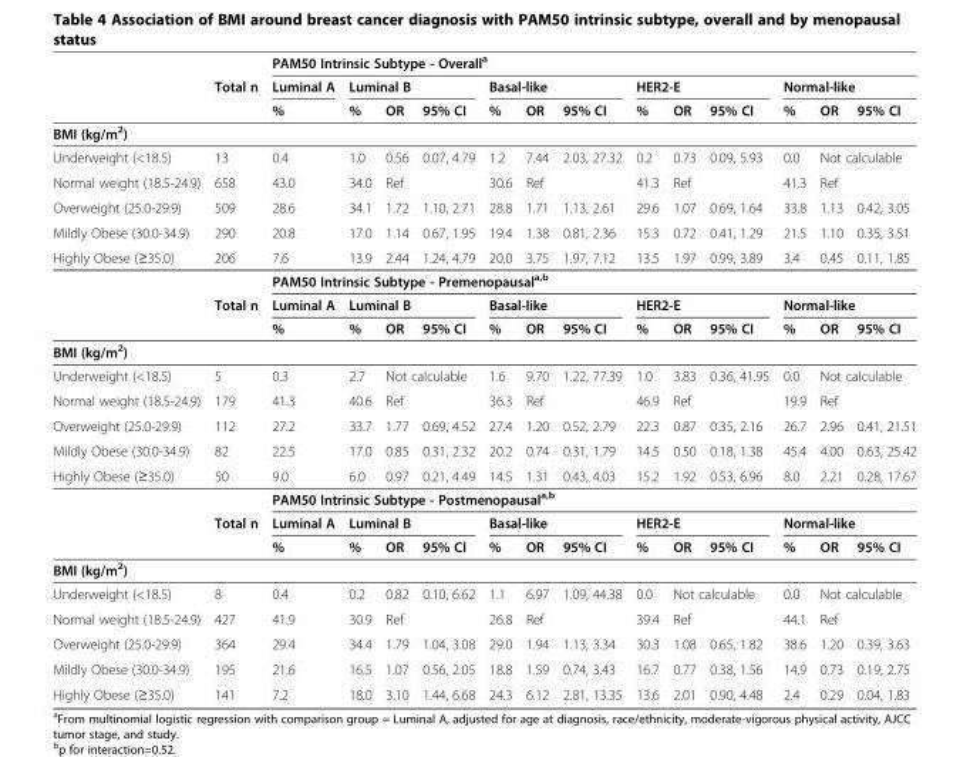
<table><thead><tr><td rowspan="3"></td><td rowspan="3">Total n</td><td colspan="13">PAM50 Intrinsic Subtype - Overall<sup>a</sup></td></tr><tr><td rowspan="2">Luminal A %</td><td colspan="3">Luminal B</td><td colspan="3">Basal-like</td><td colspan="3">HER2-E</td><td colspan="3">Normal-like</td></tr><tr><td>%</td><td>OR</td><td>95% CI</td><td>%</td><td>OR</td><td>95% CI</td><td>%</td><td>OR</td><td>95% CI</td><td>%</td><td>OR</td><td>95% CI</td></tr></thead><tbody><tr><td colspan="15">BMI (kg/m<sup>2</sup>)</td></tr><tr><td>Underweight (&lt;18.5)</td><td>13</td><td>0.4</td><td>1.0</td><td>0.56</td><td>0.07, 4.79</td><td>1.2</td><td>7.44</td><td>2.03, 27.32</td><td>0.2</td><td>0.73</td><td>0.09, 5.93</td><td>0.0</td><td colspan="2">Not calculable</td></tr><tr><td>Normal weight (18.5-24.9)</td><td>658</td><td>43.0</td><td>34.0</td><td>Ref</td><td></td><td>30.6</td><td>Ref</td><td></td><td>41.3</td><td>Ref</td><td></td><td>41.3</td><td>Ref</td><td></td></tr><tr><td>Overweight (25.0-29.9)</td><td>509</td><td>28.6</td><td>34.1</td><td>1.72</td><td>1.10, 2.71</td><td>28.8</td><td>1.71</td><td>1.13, 2.61</td><td>29.6</td><td>1.07</td><td>0.69, 1.64</td><td>33.8</td><td>1.13</td><td>0.42, 3.05</td></tr><tr><td>Mildly Obese (30.0-34.9)</td><td>290</td><td>20.8</td><td>17.0</td><td>1.14</td><td>0.67, 1.95</td><td>19.4</td><td>1.38</td><td>0.81, 2.36</td><td>15.3</td><td>0.72</td><td>0.41, 1.29</td><td>21.5</td><td>1.10</td><td>0.35, 3.51</td></tr><tr><td rowspan="4">Highly Obese (≥35.0)</td><td>206</td><td>7.6</td><td>13.9</td><td>2.44</td><td>1.24, 4.79</td><td>20.0</td><td>3.75</td><td>1.97, 7.12</td><td>13.5</td><td>1.97</td><td>0.99, 3.89</td><td>3.4</td><td>0.45</td><td>0.11, 1.85</td></tr><tr><td rowspan="3">Total n</td><td colspan="13">PAM50 Intrinsic Subtype - Premenopausal<sup>a,b</sup></td></tr><tr><td>Luminal A</td><td colspan="3">Luminal B</td><td colspan="3">Basal-like</td><td colspan="3">HER2-E</td><td colspan="3">Normal-like</td></tr><tr><td>%</td><td>%</td><td>OR</td><td>95% CI</td><td>%</td><td>OR</td><td>95% CI</td><td>%</td><td>OR</td><td>95% CI</td><td>%</td><td>OR</td><td>95% CI</td></tr><tr><td colspan="15">BMI (kg/m<sup>2</sup>)</td></tr><tr><td>Underweight (&lt;18.5)</td><td>5</td><td>0.3</td><td>2.7</td><td colspan="2">Not calculable</td><td>1.6</td><td>9.70</td><td>1.22, 77.39</td><td>1.0</td><td>3.83</td><td>0.36, 41.95</td><td>0.0</td><td colspan="2">Not calculable</td></tr><tr><td>Normal weight (18.5-24.9)</td><td>179</td><td>41.3</td><td>40.6</td><td>Ref</td><td></td><td>36.3</td><td>Ref</td><td></td><td>46.9</td><td>Ref</td><td></td><td>19.9</td><td>Ref</td><td></td></tr><tr><td>Overweight (25.0-29.9)</td><td>112</td><td>27.2</td><td>33.7</td><td>1.77</td><td>0.69, 4.52</td><td>27.4</td><td>1.20</td><td>0.52, 2.79</td><td>22.3</td><td>0.87</td><td>0.35, 2.16</td><td>26.7</td><td>2.96</td><td>0.41, 21.51</td></tr><tr><td>Mildly Obese (30.0-34.9)</td><td>82</td><td>22.5</td><td>17.0</td><td>0.85</td><td>0.31, 2.32</td><td>20.2</td><td>0.74</td><td>0.31, 1.79</td><td>14.5</td><td>0.50</td><td>0.18, 1.38</td><td>45.4</td><td>4.00</td><td>0.63, 25.42</td></tr><tr><td rowspan="4">Highly Obese (≥35.0)</td><td>50</td><td>9.0</td><td>6.0</td><td>0.97</td><td>0.21, 4.49</td><td>14.5</td><td>1.31</td><td>0.43, 4.03</td><td>15.2</td><td>1.92</td><td>0.53, 6.96</td><td>8.0</td><td>2.21</td><td>0.28, 17.67</td></tr><tr><td rowspan="3">Total n</td><td colspan="13">PAM50 Intrinsic Subtype - Postmenopausal<sup>a,b</sup></td></tr><tr><td>Luminal A</td><td colspan="3">Luminal B</td><td colspan="3">Basal-like</td><td colspan="3">HER2-E</td><td colspan="3">Normal-like</td></tr><tr><td>%</td><td>%</td><td>OR</td><td>95% CI</td><td>%</td><td>OR</td><td>95% CI</td><td>%</td><td>OR</td><td>95% CI</td><td>%</td><td>OR</td><td>95% CI</td></tr><tr><td colspan="15">BMI (kg/m<sup>2</sup>)</td></tr><tr><td>Underweight (&lt;18.5)</td><td>8</td><td>0.4</td><td>0.2</td><td>0.82</td><td>0.10, 6.62</td><td>1.1</td><td>6.97</td><td>1.09, 44.38</td><td>0.0</td><td colspan="2">Not calculable</td><td>0.0</td><td colspan="2">Not calculable</td></tr><tr><td>Normal weight (18.5-24.9)</td><td>427</td><td>41.9</td><td>30.9</td><td>Ref</td><td></td><td>26.8</td><td>Ref</td><td></td><td>39.4</td><td>Ref</td><td></td><td>44.1</td><td>Ref</td><td></td></tr><tr><td>Overweight (25.0-29.9)</td><td>364</td><td>29.4</td><td>34.4</td><td>1.79</td><td>1.04, 3.08</td><td>29.0</td><td>1.94</td><td>1.13, 3.34</td><td>30.3</td><td>1.08</td><td>0.65, 1.82</td><td>38.6</td><td>1.20</td><td>0.39, 3.63</td></tr><tr><td>Mildly Obese (30.0-34.9)</td><td>195</td><td>21.6</td><td>16.5</td><td>1.07</td><td>0.56, 2.05</td><td>18.8</td><td>1.59</td><td>0.74, 3.43</td><td>16.7</td><td>0.77</td><td>0.38, 1.56</td><td>14.9</td><td>0.73</td><td>0.19, 2.75</td></tr><tr><td>Highly Obese (≥35.0)</td><td>141</td><td>7.2</td><td>18.0</td><td>3.10</td><td>1.44, 6.68</td><td>24.3</td><td>6.12</td><td>2.81, 13.35</td><td>13.6</td><td>2.01</td><td>0.90, 4.48</td><td>2.4</td><td>0.29</td><td>0.04, 1.83</td></tr></tbody></table>